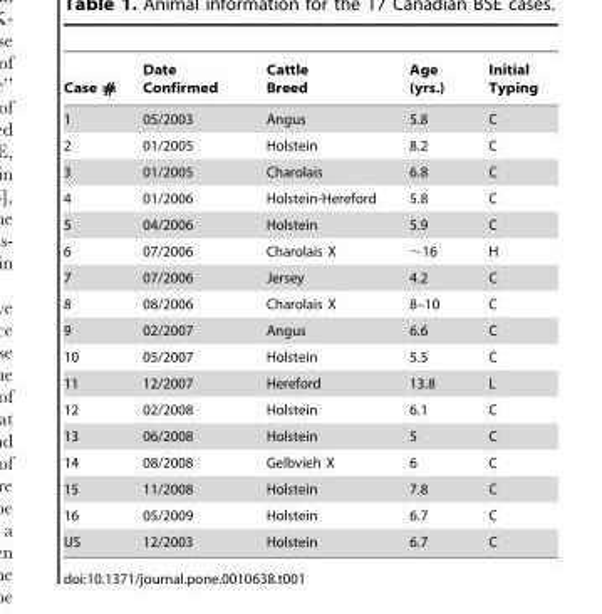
<table><thead><tr><td>Case #</td><td>Date Confirmed</td><td>Cattle Breed</td><td>Age (yrs.)</td><td>Initial Typing</td></tr></thead><tbody><tr><td>1</td><td>05/2003</td><td>Angus</td><td>5.8</td><td>C</td></tr><tr><td>2</td><td>01/2005</td><td>Holstein</td><td>8.2</td><td>C</td></tr><tr><td>3</td><td>01/2005</td><td>Charolais</td><td>6.8</td><td>C</td></tr><tr><td>4</td><td>01/2006</td><td>Holstein-Hereford</td><td>5.8</td><td>C</td></tr><tr><td>5</td><td>04/2006</td><td>Holstein</td><td>5.9</td><td>C</td></tr><tr><td>6</td><td>07/2006</td><td>Charolais X</td><td>∼16</td><td>H</td></tr><tr><td>7</td><td>07/2006</td><td>Jersey</td><td>4.2</td><td>C</td></tr><tr><td>8</td><td>08/2006</td><td>Charolais X</td><td>8–10</td><td>C</td></tr><tr><td>9</td><td>02/2007</td><td>Angus</td><td>6.6</td><td>C</td></tr><tr><td>10</td><td>05/2007</td><td>Holstein</td><td>5.5</td><td>C</td></tr><tr><td>11</td><td>12/2007</td><td>Hereford</td><td>13.8</td><td>L</td></tr><tr><td>12</td><td>02/2008</td><td>Holstein</td><td>6.1</td><td>C</td></tr><tr><td>13</td><td>06/2008</td><td>Holstein</td><td>5</td><td>C</td></tr><tr><td>14</td><td>08/2008</td><td>Gelbvieh X</td><td>6</td><td>C</td></tr><tr><td>15</td><td>11/2008</td><td>Holstein</td><td>7.8</td><td>C</td></tr><tr><td>16</td><td>05/2009</td><td>Holstein</td><td>6.7</td><td>C</td></tr><tr><td>US</td><td>12/2003</td><td>Holstein</td><td>6.7</td><td>C</td></tr></tbody></table>